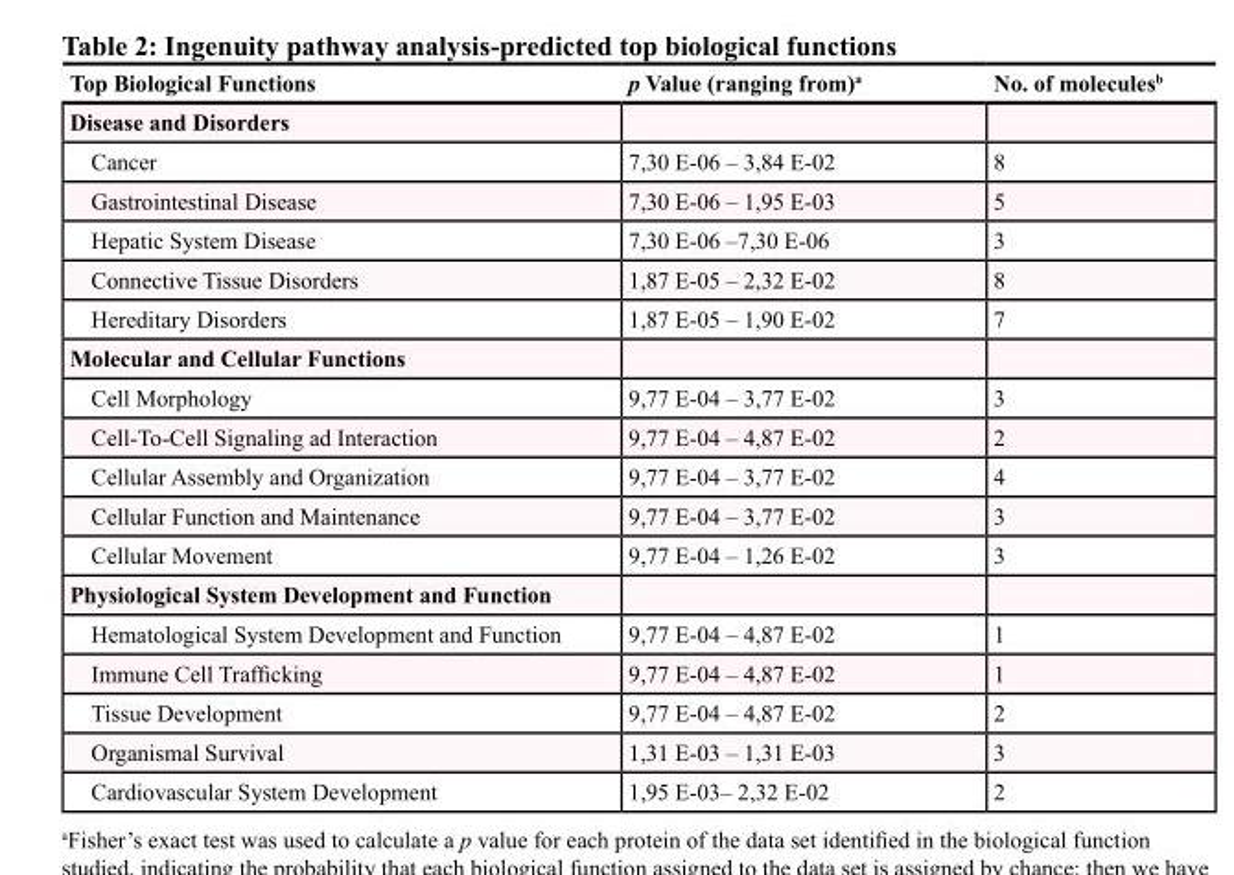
<table><thead><tr><td>Top Biological Functions</td><td>p Value (ranging from)<sup>a</sup></td><td>No. of molecules<sup>b</sup></td></tr></thead><tbody><tr><td colspan="3">Disease and Disorders</td></tr><tr><td>Cancer</td><td>7,30 E-06 – 3,84 E-02</td><td>8</td></tr><tr><td>Gastrointestinal Disease</td><td>7,30 E-06 – 1,95 E-03</td><td>5</td></tr><tr><td>Hepatic System Disease</td><td>7,30 E-06 –7,30 E-06</td><td>3</td></tr><tr><td>Connective Tissue Disorders</td><td>1,87 E-05 – 2,32 E-02</td><td>8</td></tr><tr><td>Hereditary Disorders</td><td>1,87 E-05 – 1,90 E-02</td><td>7</td></tr><tr><td colspan="3">Molecular and Cellular Functions</td></tr><tr><td>Cell Morphology</td><td>9,77 E-04 – 3,77 E-02</td><td>3</td></tr><tr><td>Cell-To-Cell Signaling ad Interaction</td><td>9,77 E-04 – 4,87 E-02</td><td>2</td></tr><tr><td>Cellular Assembly and Organization</td><td>9,77 E-04 – 3,77 E-02</td><td>4</td></tr><tr><td>Cellular Function and Maintenance</td><td>9,77 E-04 – 3,77 E-02</td><td>3</td></tr><tr><td>Cellular Movement</td><td>9,77 E-04 – 1,26 E-02</td><td>3</td></tr><tr><td colspan="3">Physiological System Development and Function</td></tr><tr><td>Hematological System Development and Function</td><td>9,77 E-04 – 4,87 E-02</td><td>1</td></tr><tr><td>Immune Cell Trafficking</td><td>9,77 E-04 – 4,87 E-02</td><td>1</td></tr><tr><td>Tissue Development</td><td>9,77 E-04 – 4,87 E-02</td><td>2</td></tr><tr><td>Organismal Survival</td><td>1,31 E-03 – 1,31 E-03</td><td>3</td></tr><tr><td>Cardiovascular System Development</td><td>1,95 E-03– 2,32 E-02</td><td>2</td></tr></tbody></table>